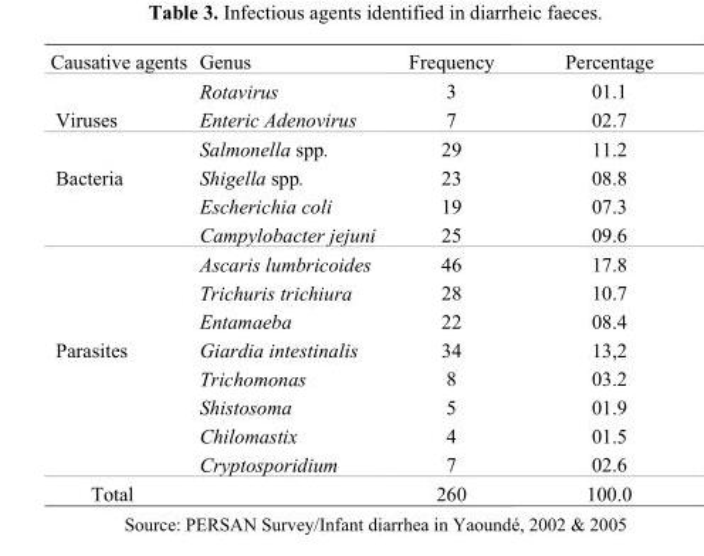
<table><thead><tr><td>Causative agents</td><td>Genus</td><td>Frequency</td><td>Percentage</td></tr></thead><tbody><tr><td rowspan="2">Viruses</td><td>Rotavirus</td><td>3</td><td>01.1</td></tr><tr><td>Enteric Adenovirus</td><td>7</td><td>02.7</td></tr><tr><td rowspan="4">Bacteria</td><td>Salmonella spp.</td><td>29</td><td>11.2</td></tr><tr><td>Shigella spp.</td><td>23</td><td>08.8</td></tr><tr><td>Escherichia coli</td><td>19</td><td>07.3</td></tr><tr><td>Campylobacter jejuni</td><td>25</td><td>09.6</td></tr><tr><td rowspan="8">Parasites</td><td>Ascaris lumbricoides</td><td>46</td><td>17.8</td></tr><tr><td>Trichuris trichiura</td><td>28</td><td>10.7</td></tr><tr><td>Entamaeba</td><td>22</td><td>08.4</td></tr><tr><td>Giardia intestinalis</td><td>34</td><td>13,2</td></tr><tr><td>Trichomonas</td><td>8</td><td>03.2</td></tr><tr><td>Shistosoma</td><td>5</td><td>01.9</td></tr><tr><td>Chilomastix</td><td>4</td><td>01.5</td></tr><tr><td>Cryptosporidium</td><td>7</td><td>02.6</td></tr><tr><td>Total</td><td></td><td>260</td><td>100.0</td></tr></tbody></table>